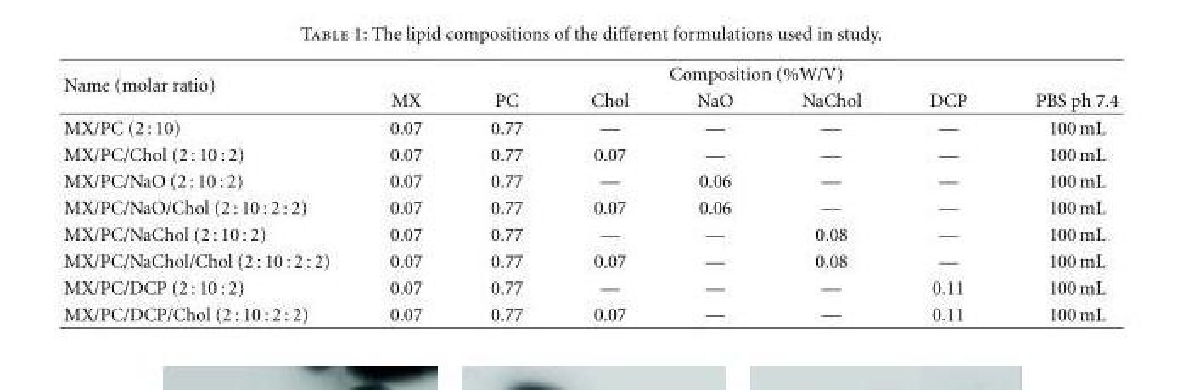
<table><thead><tr><td rowspan="2">Name (molar ratio)</td><td colspan="7">Composition (%W/V)</td></tr><tr><td>MX</td><td>PC</td><td>Chol</td><td>NaO</td><td>NaChol</td><td>DCP</td><td>PBS ph 7.4</td></tr></thead><tbody><tr><td>MX/PC (2 : 10)</td><td>0.07</td><td>0.77</td><td>—</td><td>—</td><td>—</td><td>—</td><td>100 mL</td></tr><tr><td>MX/PC/Chol (2 : 10 : 2)</td><td>0.07</td><td>0.77</td><td>0.07</td><td>—</td><td>—</td><td>—</td><td>100 mL</td></tr><tr><td>MX/PC/NaO (2 : 10 : 2)</td><td>0.07</td><td>0.77</td><td>—</td><td>0.06</td><td>—</td><td>—</td><td>100 mL</td></tr><tr><td>MX/PC/NaO/Chol (2 : 10 : 2 : 2)</td><td>0.07</td><td>0.77</td><td>0.07</td><td>0.06</td><td>—</td><td>—</td><td>100 mL</td></tr><tr><td>MX/PC/NaChol (2 : 10 : 2)</td><td>0.07</td><td>0.77</td><td>—</td><td>—</td><td>0.08</td><td>—</td><td>100 mL</td></tr><tr><td>MX/PC/NaChol/Chol (2 : 10 : 2 : 2)</td><td>0.07</td><td>0.77</td><td>0.07</td><td>—</td><td>0.08</td><td>—</td><td>100 mL</td></tr><tr><td>MX/PC/DCP (2 : 10 : 2)</td><td>0.07</td><td>0.77</td><td>—</td><td>—</td><td>—</td><td>0.11</td><td>100 mL</td></tr><tr><td>MX/PC/DCP/Chol (2 : 10 : 2 : 2)</td><td>0.07</td><td>0.77</td><td>0.07</td><td>—</td><td>—</td><td>0.11</td><td>100 mL</td></tr></tbody></table>